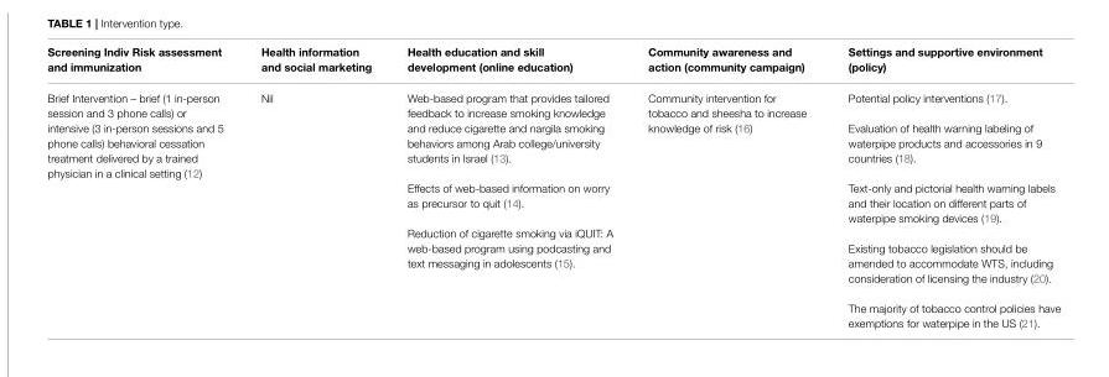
<table><thead><tr><td>Screening Indiv Risk assessment and immunization</td><td>Health information and social marketing</td><td>Health education and skill development (online education)</td><td>Community awareness and action (community campaign)</td><td>Settings and supportive environment (policy)</td></tr></thead><tbody><tr><td>Brief Intervention – brief (1 in-person session and 3 phone calls) or intensive (3 in-person sessions and 5 phone calls) behavioral cessation treatment delivered by a trained physician in a clinical setting (12)</td><td>Nil</td><td>Web-based program that provides tailored feedback to increase smoking knowledge and reduce cigarette and nargila smoking behaviors among Arab college/university students in Israel (13). Effects of web-based information on worry as precursor to quit (14). Reduction of cigarette smoking via iQUIT: A web-based program using podcasting and text messaging in adolescents (15).</td><td>Community intervention for tobacco and sheesha to increase knowledge of risk (16)</td><td>Potential policy interventions (17). Evaluation of health warning labeling of waterpipe products and accessories in 9 countries (18). Text-only and pictorial health warning labels and their location on different parts of waterpipe smoking devices (19). Existing tobacco legislation should be amended to accommodate WTS, including consideration of licensing the industry (20). The majority of tobacco control policies have exemptions for waterpipe in the US (21).</td></tr></tbody></table>